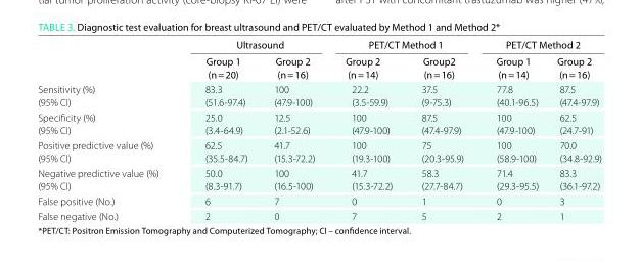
<table><thead><tr><td rowspan="2"></td><td colspan="2">ultrasound</td><td colspan="2">PeT/CT Method 1</td><td colspan="2">PeT/CT Method 2</td></tr><tr><td>Group 1 (n = 20)</td><td>Group 2 (n = 16)</td><td>Group 2 (n = 14)</td><td>Group2 (n = 16)</td><td>Group 1 (n = 14)</td><td>Group 2 (n = 16)</td></tr></thead><tbody><tr><td>Sensitivity (%) (95% CI)</td><td>83.3 (51.6-97.4)</td><td>100 (47.9-100)</td><td>22.2 (3.5-59.9)</td><td>37.5 (9-75.3)</td><td>77.8 (40.1-96.5)</td><td>87.5 (47.4-97.9)</td></tr><tr><td>Specificity (%) (95% CI)</td><td>25.0 (3.4-64.9)</td><td>12.5 (2.1-52.6)</td><td>100 (47.9-100)</td><td>87.5 (47.4-97.9)</td><td>100 (47.9-100)</td><td>62.5 (24.7-91)</td></tr><tr><td>Positive predictive value (%) (95% CI)</td><td>62.5 (35.5-84.7)</td><td>41.7 (15.3-72.2)</td><td>100 (19.3-100)</td><td>75 (20.3-95.9)</td><td>100 (58.9-100)</td><td>70.0 (34.8-92.9)</td></tr><tr><td>Negative predictive value (%) (95% CI)</td><td>50.0 (8.3-91.7)</td><td>100 (16.5-100)</td><td>41.7 (15.3-72.2)</td><td>58.3 (27.7-84.7)</td><td>71.4 (29.3-95.5)</td><td>83.3 (36.1-97.2)</td></tr><tr><td>False positive (No.)</td><td>6</td><td>7</td><td>0</td><td>1</td><td>0</td><td>3</td></tr><tr><td>False negative (No.)</td><td>2</td><td>0</td><td>7</td><td>5</td><td>2</td><td>1</td></tr></tbody></table>